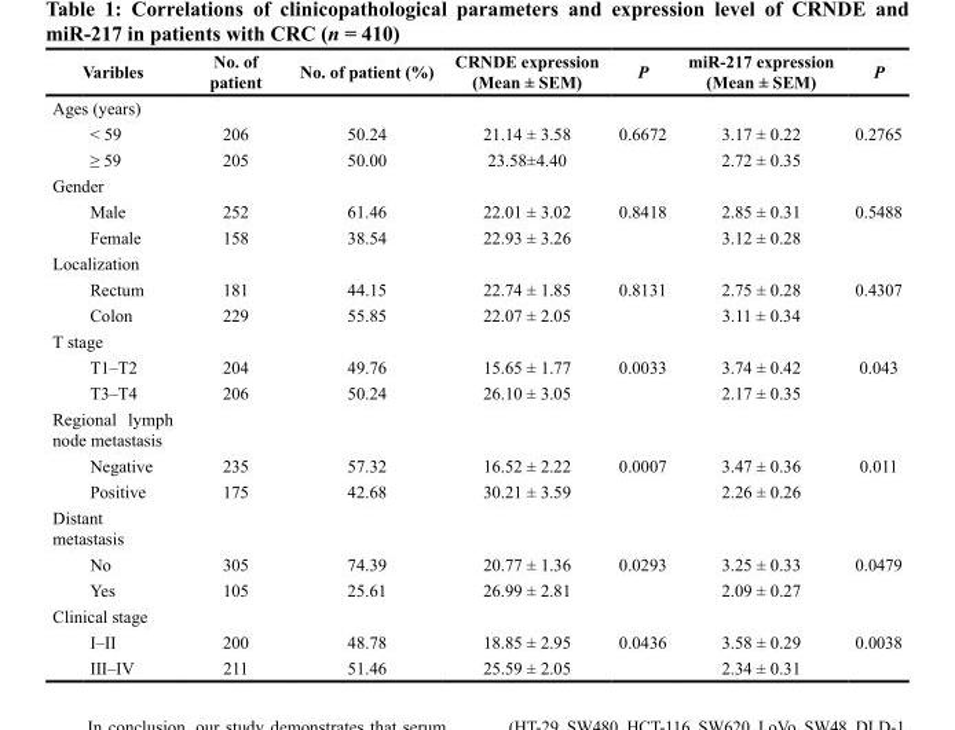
<table><thead><tr><td>Varibles</td><td>No. of patient</td><td>No. of patient (%)</td><td>CRNDE expression (Mean ± SEM)</td><td>P</td><td>miR-217 expression (Mean ± SEM)</td><td>P</td></tr></thead><tbody><tr><td colspan="7">Ages (years)</td></tr><tr><td>&lt; 59</td><td>206</td><td>50.24</td><td>21.14 ± 3.58</td><td>0.6672</td><td>3.17 ± 0.22</td><td>0.2765</td></tr><tr><td>≥ 59</td><td>205</td><td>50.00</td><td>23.58±4.40</td><td></td><td>2.72 ± 0.35</td><td></td></tr><tr><td colspan="7">Gender</td></tr><tr><td>Male</td><td>252</td><td>61.46</td><td>22.01 ± 3.02</td><td>0.8418</td><td>2.85 ± 0.31</td><td>0.5488</td></tr><tr><td>Female</td><td>158</td><td>38.54</td><td>22.93 ± 3.26</td><td></td><td>3.12 ± 0.28</td><td></td></tr><tr><td colspan="7">Localization</td></tr><tr><td>Rectum</td><td>181</td><td>44.15</td><td>22.74 ± 1.85</td><td>0.8131</td><td>2.75 ± 0.28</td><td>0.4307</td></tr><tr><td>Colon</td><td>229</td><td>55.85</td><td>22.07 ± 2.05</td><td></td><td>3.11 ± 0.34</td><td></td></tr><tr><td colspan="7">T stage</td></tr><tr><td>T1–T2</td><td>204</td><td>49.76</td><td>15.65 ± 1.77</td><td>0.0033</td><td>3.74 ± 0.42</td><td>0.043</td></tr><tr><td>T3–T4</td><td>206</td><td>50.24</td><td>26.10 ± 3.05</td><td></td><td>2.17 ± 0.35</td><td></td></tr><tr><td colspan="7">Regional lymph node metastasis</td></tr><tr><td>Negative</td><td>235</td><td>57.32</td><td>16.52 ± 2.22</td><td>0.0007</td><td>3.47 ± 0.36</td><td>0.011</td></tr><tr><td>Positive</td><td>175</td><td>42.68</td><td>30.21 ± 3.59</td><td></td><td>2.26 ± 0.26</td><td></td></tr><tr><td colspan="7">Distant metastasis</td></tr><tr><td>No</td><td>305</td><td>74.39</td><td>20.77 ± 1.36</td><td>0.0293</td><td>3.25 ± 0.33</td><td>0.0479</td></tr><tr><td>Yes</td><td>105</td><td>25.61</td><td>26.99 ± 2.81</td><td></td><td>2.09 ± 0.27</td><td></td></tr><tr><td colspan="7">Clinical stage</td></tr><tr><td>I–II</td><td>200</td><td>48.78</td><td>18.85 ± 2.95</td><td>0.0436</td><td>3.58 ± 0.29</td><td>0.0038</td></tr><tr><td>III–IV</td><td>211</td><td>51.46</td><td>25.59 ± 2.05</td><td></td><td>2.34 ± 0.31</td><td></td></tr></tbody></table>